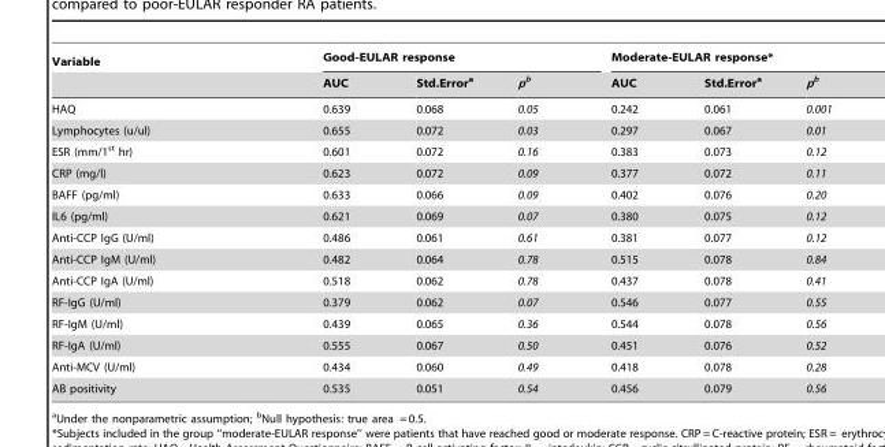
<table><thead><tr><td rowspan="2">Variable</td><td colspan="3">Good-EULAR response</td><td colspan="3">Moderate-EULAR response*</td></tr><tr><td>AUC</td><td>Std.Error<sup>a</sup></td><td>p<sup>b</sup></td><td>AUC</td><td>Std.Error<sup>a</sup></td><td>p<sup>b</sup></td></tr></thead><tbody><tr><td>HAQ</td><td>0.639</td><td>0.068</td><td>0.05</td><td>0.242</td><td>0.061</td><td>0.001</td></tr><tr><td>Lymphocytes (u/ul)</td><td>0.655</td><td>0.072</td><td>0.03</td><td>0.297</td><td>0.067</td><td>0.01</td></tr><tr><td>ESR (mm/1<sup>st</sup> hr)</td><td>0.601</td><td>0.072</td><td>0.16</td><td>0.383</td><td>0.073</td><td>0.12</td></tr><tr><td>CRP (mg/l)</td><td>0.623</td><td>0.072</td><td>0.09</td><td>0.377</td><td>0.072</td><td>0.11</td></tr><tr><td>BAFF (pg/ml)</td><td>0.633</td><td>0.066</td><td>0.09</td><td>0.402</td><td>0.076</td><td>0.20</td></tr><tr><td>IL6 (pg/ml)</td><td>0.621</td><td>0.069</td><td>0.07</td><td>0.380</td><td>0.075</td><td>0.12</td></tr><tr><td>Anti-CCP IgG (U/ml)</td><td>0.486</td><td>0.061</td><td>0.61</td><td>0.381</td><td>0.077</td><td>0.12</td></tr><tr><td>Anti-CCP IgM (U/ml)</td><td>0.482</td><td>0.064</td><td>0.78</td><td>0.515</td><td>0.078</td><td>0.84</td></tr><tr><td>Anti-CCP IgA (U/ml)</td><td>0.518</td><td>0.062</td><td>0.78</td><td>0.437</td><td>0.078</td><td>0.41</td></tr><tr><td>RF-IgG (U/ml)</td><td>0.379</td><td>0.062</td><td>0.07</td><td>0.546</td><td>0.077</td><td>0.55</td></tr><tr><td>RF-IgM (U/ml)</td><td>0.439</td><td>0.065</td><td>0.36</td><td>0.544</td><td>0.078</td><td>0.56</td></tr><tr><td>RF-IgA (U/ml)</td><td>0.555</td><td>0.067</td><td>0.50</td><td>0.451</td><td>0.076</td><td>0.52</td></tr><tr><td>Anti-MCV (U/ml)</td><td>0.434</td><td>0.060</td><td>0.49</td><td>0.418</td><td>0.078</td><td>0.28</td></tr><tr><td>AB positivity</td><td>0.535</td><td>0.051</td><td>0.54</td><td>0.456</td><td>0.079</td><td>0.56</td></tr></tbody></table>